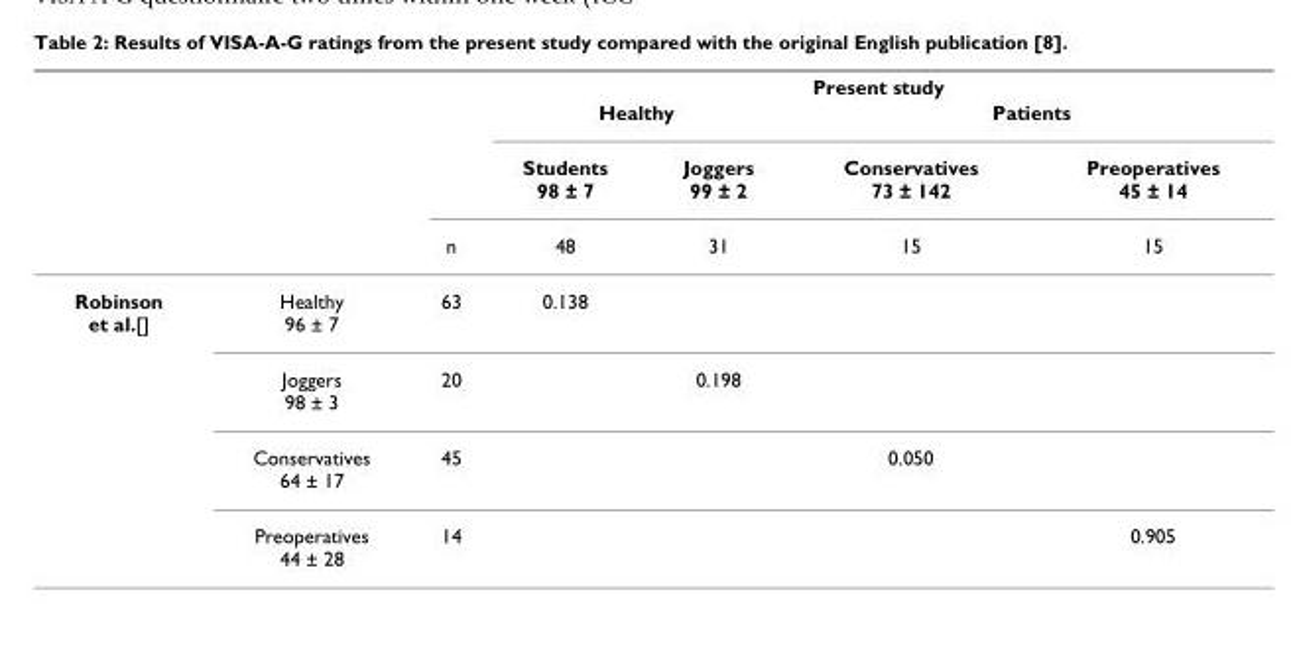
<table><thead><tr><td rowspan="4"></td><td rowspan="4"></td><td rowspan="4">n</td><td colspan="4">Present study</td></tr><tr><td colspan="2">Healthy</td><td colspan="2">Patients</td></tr><tr><td rowspan="2">Students 98 ± 7 48</td><td rowspan="2">Joggers 99 ± 2 31</td><td rowspan="2">Conservatives 73 ± 142 15</td><td rowspan="2">Preoperatives 45 ± 14 15</td></tr><tr></tr></thead><tbody><tr><td rowspan="4">Robinson et al.[]</td><td>Healthy 96 ± 7</td><td>63</td><td>0.138</td><td></td><td></td><td></td></tr><tr><td>Joggers 98 ± 3</td><td>20</td><td></td><td>0.198</td><td></td><td></td></tr><tr><td>Conservatives 64 ± 17</td><td>45</td><td></td><td></td><td>0.050</td><td></td></tr><tr><td>Preoperatives 44 ± 28</td><td>14</td><td></td><td></td><td></td><td>0.905</td></tr></tbody></table>